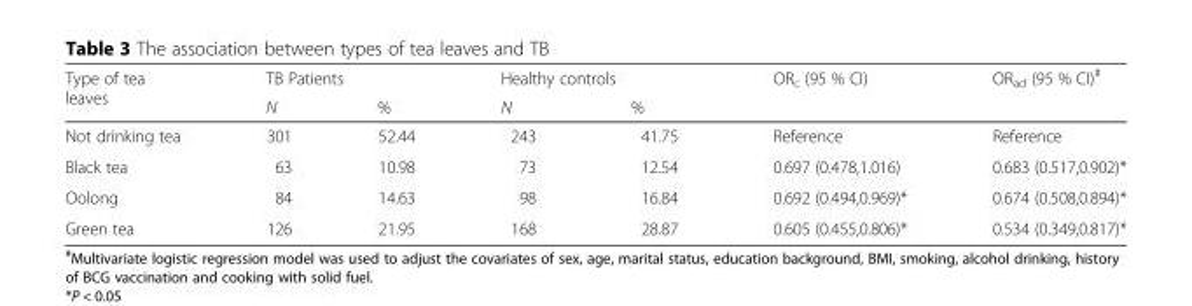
<table><thead><tr><td rowspan="2">Type of tea leaves</td><td colspan="2">TB Patients</td><td colspan="2">Healthy controls</td><td rowspan="2">OR<sub>c</sub> (95 % CI)</td><td rowspan="2">OR<sub>ad</sub> (95 % CI)<sup>#</sup></td></tr><tr><td>N</td><td>%</td><td>N</td><td>%</td></tr></thead><tbody><tr><td>Not drinking tea</td><td>301</td><td>52.44</td><td>243</td><td>41.75</td><td>Reference</td><td>Reference</td></tr><tr><td>Black tea</td><td>63</td><td>10.98</td><td>73</td><td>12.54</td><td>0.697 (0.478,1.016)</td><td>0.683 (0.517,0.902)*</td></tr><tr><td>Oolong</td><td>84</td><td>14.63</td><td>98</td><td>16.84</td><td>0.692 (0.494,0.969)*</td><td>0.674 (0.508,0.894)*</td></tr><tr><td>Green tea</td><td>126</td><td>21.95</td><td>168</td><td>28.87</td><td>0.605 (0.455,0.806)*</td><td>0.534 (0.349,0.817)*</td></tr></tbody></table>